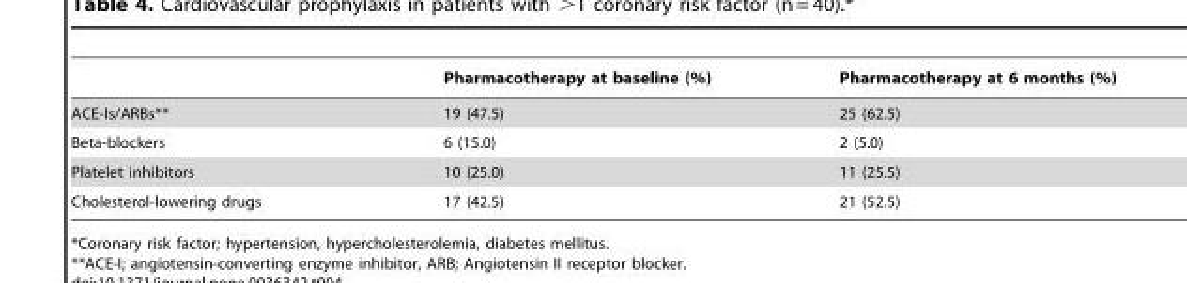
<table><thead><tr><td></td><td>Pharmacotherapy at baseline (%)</td><td>Pharmacotherapy at 6 months (%)</td></tr></thead><tbody><tr><td>ACE-Is/ARBs**</td><td>19 (47.5)</td><td>25 (62.5)</td></tr><tr><td>Beta-blockers</td><td>6 (15.0)</td><td>2 (5.0)</td></tr><tr><td>Platelet inhibitors</td><td>10 (25.0)</td><td>11 (25.5)</td></tr><tr><td>Cholesterol-lowering drugs</td><td>17 (42.5)</td><td>21 (52.5)</td></tr></tbody></table>